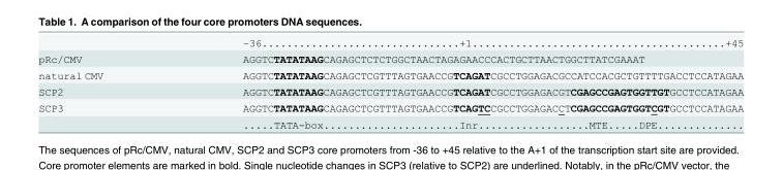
<table><thead><tr><td></td><td>−36................................+1.........................................+45</td></tr></thead><tbody><tr><td>pRc/CMV</td><td>AGGTCTATATAAGCAGAGCTCTCTGGCTAACTAGAGAACCCACTGCTTAACTGGCTTATCGAAAT</td></tr><tr><td>natural CMV</td><td>AGGTCTATATAAGCAGAGCTCGTTTAGTGAACCGTCAGATCGCCTGGAGACGCCATCCACGCTGTTTTGACCTCCATAGAA</td></tr><tr><td>SCP2</td><td>AGGTCTATATAAGCAGAGCTCGTTTAGTGAACCGTCAGATCGCCTGGAGACGTCGAGCCGAGTGGTTGTGCCTCCATAGAA</td></tr><tr><td rowspan="2">SCP3</td><td>AGGTCTATATAAGCAGAGCTCGTTTAGTGAACCGTCAGTCCGCCTGGAGACCTCGAGCCGAGTGGTCGTGCCTCCATAGAA</td></tr><tr><td>.....TATA-box......................Inr..................MTE.....DPE..............</td></tr></tbody></table>